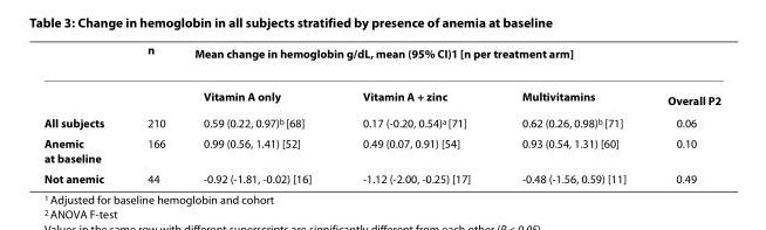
<table><thead><tr><td rowspan="2"></td><td rowspan="2">n</td><td colspan="4">Mean change in hemoglobin g/dL, mean (95% CI)<sup>1</sup> [n per treatment arm]</td></tr><tr><td>Vitamin A only</td><td>Vitamin A + zinc</td><td>Multivitamins</td><td>Overall P<sup>2</sup></td></tr></thead><tbody><tr><td>All subjects</td><td>210</td><td>0.59 (0.22, 0.97)<sup>b</sup> [68]</td><td>0.17 (-0.20, 0.54)<sup>a</sup> [71]</td><td>0.62 (0.26, 0.98)<sup>b</sup> [71]</td><td>0.06</td></tr><tr><td>Anemic at baseline</td><td>166</td><td>0.99 (0.56, 1.41) [52]</td><td>0.49 (0.07, 0.91) [54]</td><td>0.93 (0.54, 1.31) [60]</td><td>0.10</td></tr><tr><td>Not anemic</td><td>44</td><td>-0.92 (-1.81, -0.02) [16]</td><td>-1.12 (-2.00, -0.25) [17]</td><td>-0.48 (-1.56, 0.59) [11]</td><td>0.49</td></tr></tbody></table>